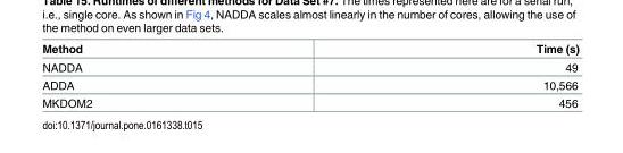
<table><thead><tr><td>Method</td><td>Time (s)</td></tr></thead><tbody><tr><td>NADDA</td><td>49</td></tr><tr><td>ADDA</td><td>10,566</td></tr><tr><td>MKDOM2</td><td>456</td></tr></tbody></table>